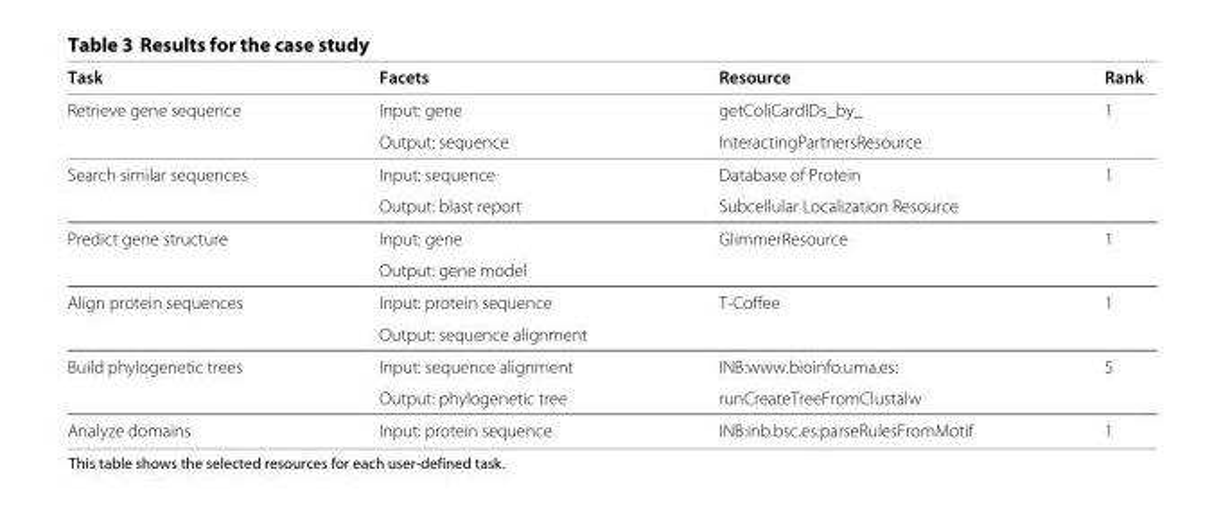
<table><thead><tr><td>Task</td><td>Facets</td><td>Resource</td><td>Rank</td></tr></thead><tbody><tr><td rowspan="2">Retrieve gene sequence</td><td>Input: gene</td><td>getColiCardIDs_by_</td><td>1</td></tr><tr><td>Output: sequence</td><td>InteractingPartnersResource</td><td></td></tr><tr><td rowspan="2">Search similar sequences</td><td>Input: sequence</td><td>Database of Protein</td><td>1</td></tr><tr><td>Output: blast report</td><td>Subcellular Localization Resource</td><td></td></tr><tr><td rowspan="2">Predict gene structure</td><td>Input: gene</td><td>GlimmerResource</td><td>1</td></tr><tr><td>Output: gene model</td><td></td><td></td></tr><tr><td rowspan="2">Align protein sequences</td><td>Input: protein sequence</td><td>T-Coffee</td><td>1</td></tr><tr><td>Output: sequence alignment</td><td></td><td></td></tr><tr><td rowspan="2">Build phylogenetic trees</td><td>Input: sequence alignment</td><td>INB:www.bioinfo.uma.es:</td><td>5</td></tr><tr><td>Output: phylogenetic tree</td><td>runCreateTreeFromClustalw</td><td></td></tr><tr><td>Analyze domains</td><td>Input: protein sequence</td><td>INB:inb.bsc.es:parseRulesFromMotif</td><td>1</td></tr></tbody></table>